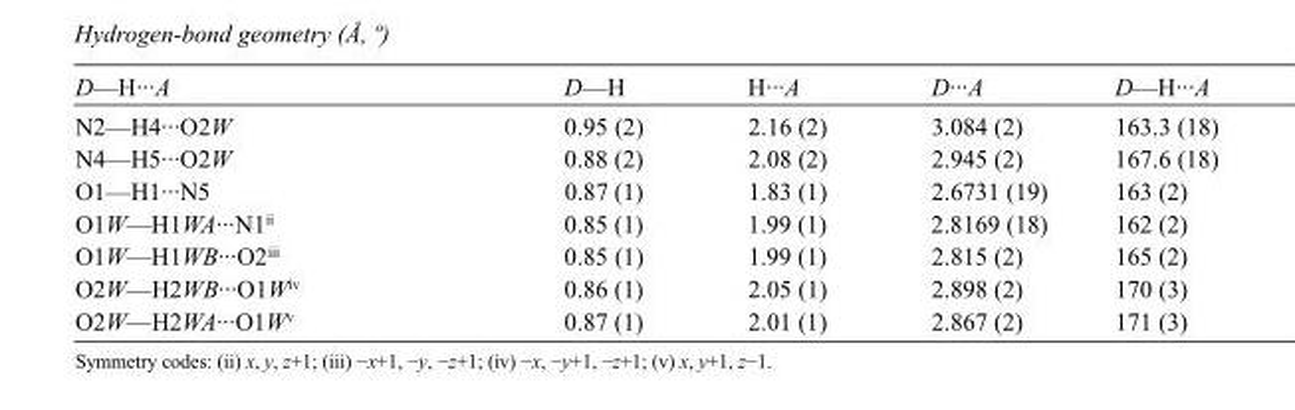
<table><tbody><tr><td>D—H···A</td><td>D—H</td><td>H···A</td><td>D···A</td><td>D—H···A</td></tr><tr><td>N2—H4···O2W</td><td>0.95 (2)</td><td>2.16 (2)</td><td>3.084 (2)</td><td>163.3 (18)</td></tr><tr><td>N4—H5···O2W</td><td>0.88 (2)</td><td>2.08 (2)</td><td>2.945 (2)</td><td>167.6 (18)</td></tr><tr><td>O1—H1···N5</td><td>0.87 (1)</td><td>1.83 (1)</td><td>2.6731 (19)</td><td>163 (2)</td></tr><tr><td>O1W—H1WA···N1<sup>ii</sup></td><td>0.85 (1)</td><td>1.99 (1)</td><td>2.8169 (18)</td><td>162 (2)</td></tr><tr><td>O1W—H1WB···O2<sup>iii</sup></td><td>0.85 (1)</td><td>1.99 (1)</td><td>2.815 (2)</td><td>165 (2)</td></tr><tr><td>O2W—H2WB···O1W<sup>iv</sup></td><td>0.86 (1)</td><td>2.05 (1)</td><td>2.898 (2)</td><td>170 (3)</td></tr><tr><td>O2W—H2WA···O1W<sup>v</sup></td><td>0.87 (1)</td><td>2.01 (1)</td><td>2.867 (2)</td><td>171 (3)</td></tr></tbody></table>